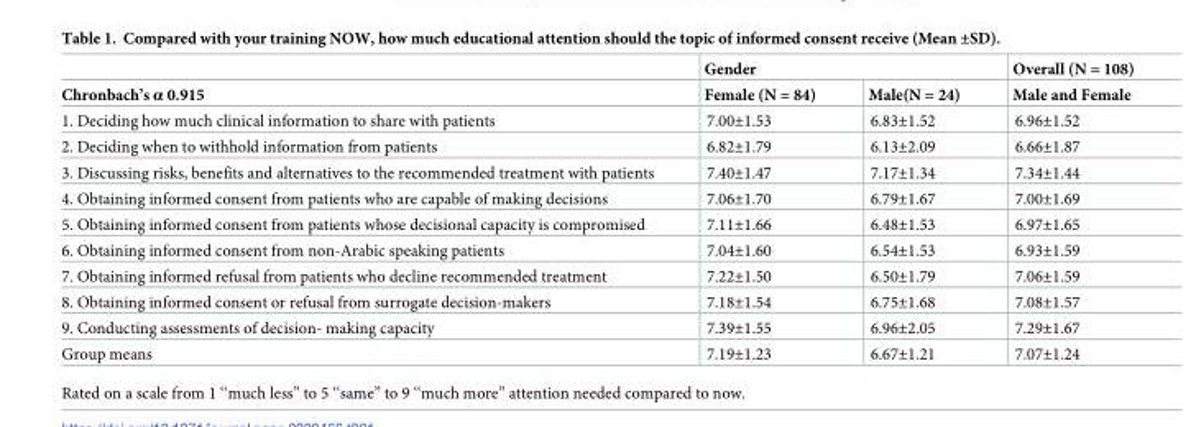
<table><thead><tr><td rowspan="2">Chronbach’s α 0.915</td><td colspan="2">Gender</td><td rowspan="2">Overall (N = 108) Male and Female</td></tr><tr><td>Female (N = 84)</td><td>Male(N = 24)</td></tr></thead><tbody><tr><td>1. Deciding how much clinical information to share with patients</td><td>7.00±1.53</td><td>6.83±1.52</td><td>6.96±1.52</td></tr><tr><td>2. Deciding when to withhold information from patients</td><td>6.82±1.79</td><td>6.13±2.09</td><td>6.66±1.87</td></tr><tr><td>3. Discussing risks, benefits and alternatives to the recommended treatment with patients</td><td>7.40±1.47</td><td>7.17±1.34</td><td>7.34±1.44</td></tr><tr><td>4. Obtaining informed consent from patients who are capable of making decisions</td><td>7.06±1.70</td><td>6.79±1.67</td><td>7.00±1.69</td></tr><tr><td>5. Obtaining informed consent from patients whose decisional capacity is compromised</td><td>7.11±1.66</td><td>6.48±1.53</td><td>6.97±1.65</td></tr><tr><td>6. Obtaining informed consent from non-Arabic speaking patients</td><td>7.04±1.60</td><td>6.54±1.53</td><td>6.93±1.59</td></tr><tr><td>7. Obtaining informed refusal from patients who decline recommended treatment</td><td>7.22±1.50</td><td>6.50±1.79</td><td>7.06±1.59</td></tr><tr><td>8. Obtaining informed consent or refusal from surrogate decision-makers</td><td>7.18±1.54</td><td>6.75±1.68</td><td>7.08±1.57</td></tr><tr><td>9. Conducting assessments of decision- making capacity</td><td>7.39±1.55</td><td>6.96±2.05</td><td>7.29±1.67</td></tr><tr><td>Group means</td><td>7.19±1.23</td><td>6.67±1.21</td><td>7.07±1.24</td></tr></tbody></table>